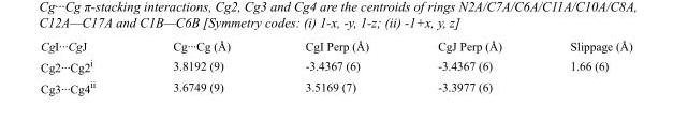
<table><tbody><tr><td>CgI···CgJ</td><td>Cg···Cg (Å)</td><td>CgI Perp (Å)</td><td>CgJ Perp (Å)</td><td>Slippage (Å)</td></tr><tr><td>Cg2···Cg2<sup>i</sup></td><td>3.8192 (9)</td><td>-3.4367 (6)</td><td>-3.4367 (6)</td><td>1.66 (6)</td></tr><tr><td>Cg3···Cg4<sup>ii</sup></td><td>3.6749 (9)</td><td>3.5169 (7)</td><td>-3.3977 (6)</td><td></td></tr></tbody></table>